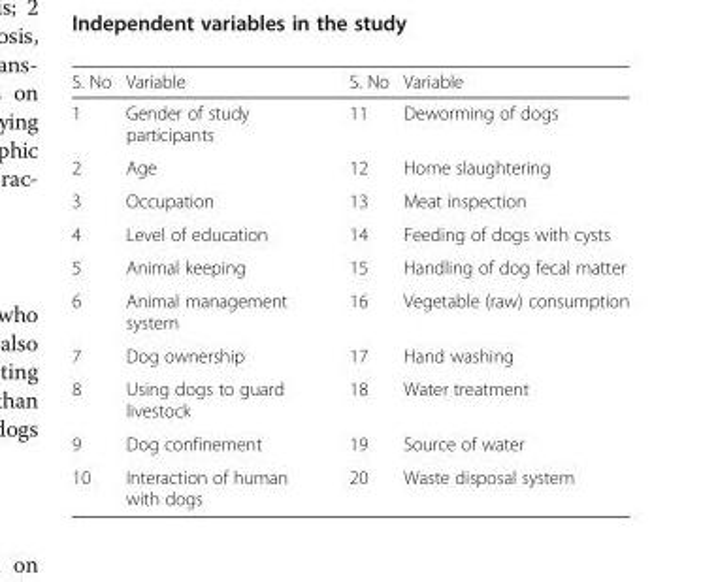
<table><thead><tr><td>S. No</td><td>Variable</td><td>S. No</td><td>Variable</td></tr></thead><tbody><tr><td>1</td><td>Gender of study participants</td><td>11</td><td>Deworming of dogs</td></tr><tr><td>2</td><td>Age</td><td>12</td><td>Home slaughtering</td></tr><tr><td>3</td><td>Occupation</td><td>13</td><td>Meat inspection</td></tr><tr><td>4</td><td>Level of education</td><td>14</td><td>Feeding of dogs with cysts</td></tr><tr><td>5</td><td>Animal keeping</td><td>15</td><td>Handling of dog fecal matter</td></tr><tr><td>6</td><td>Animal management system</td><td>16</td><td>Vegetable (raw) consumption</td></tr><tr><td>7</td><td>Dog ownership</td><td>17</td><td>Hand washing</td></tr><tr><td>8</td><td>Using dogs to guard livestock</td><td>18</td><td>Water treatment</td></tr><tr><td>9</td><td>Dog confinement</td><td>19</td><td>Source of water</td></tr><tr><td>10</td><td>Interaction of human with dogs</td><td>20</td><td>Waste disposal system</td></tr></tbody></table>